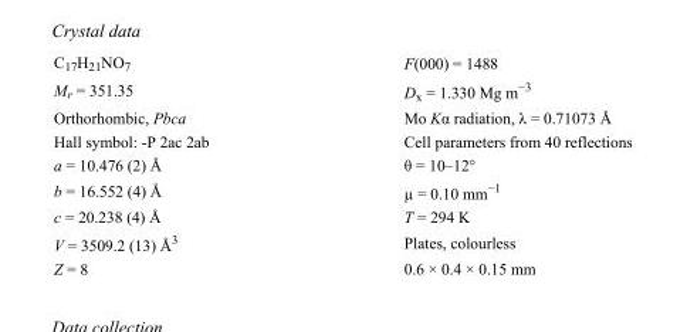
<table><tbody><tr><td>C<sub>17</sub>H<sub>21</sub>NO<sub>7</sub></td><td>F(000) = 1488</td></tr><tr><td>M<sub>r</sub> = 351.35</td><td>D<sub>x</sub> = 1.330 Mg m<sup>−3</sup></td></tr><tr><td>Orthorhombic, Pbca</td><td>Mo Kα radiation, λ = 0.71073 Å</td></tr><tr><td>Hall symbol: -P 2ac 2ab</td><td>Cell parameters from 40 reflections</td></tr><tr><td>a = 10.476 (2) Å</td><td>θ = 10–12°</td></tr><tr><td>b = 16.552 (4) Å</td><td>µ = 0.10 mm<sup>−1</sup></td></tr><tr><td>c = 20.238 (4) Å</td><td>T = 294 K</td></tr><tr><td>V = 3509.2 (13) Å<sup>3</sup></td><td>Plates, colourless</td></tr><tr><td>Z = 8</td><td>0.6 × 0.4 × 0.15 mm</td></tr></tbody></table>